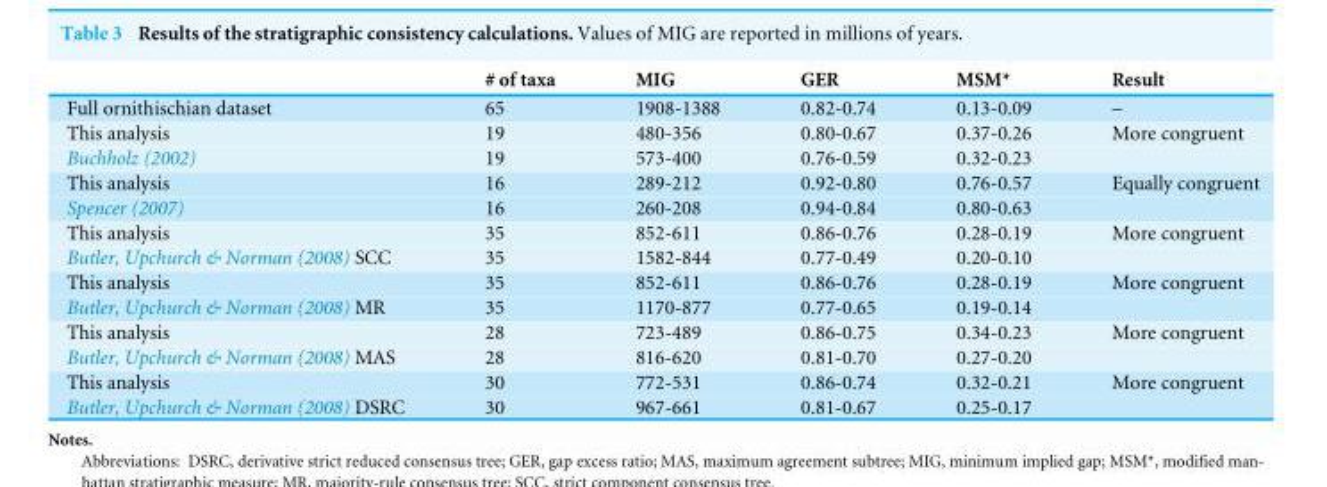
<table><thead><tr><td></td><td># of taxa</td><td>MIG</td><td>GER</td><td>MSM*</td><td>Result</td></tr></thead><tbody><tr><td>Full ornithischian dataset</td><td>65</td><td>1908-1388</td><td>0.82-0.74</td><td>0.13-0.09</td><td>–</td></tr><tr><td>This analysis</td><td>19</td><td>480-356</td><td>0.80-0.67</td><td>0.37-0.26</td><td>More congruent</td></tr><tr><td>Buchholz (2002)</td><td>19</td><td>573-400</td><td>0.76-0.59</td><td>0.32-0.23</td><td></td></tr><tr><td>This analysis</td><td>16</td><td>289-212</td><td>0.92-0.80</td><td>0.76-0.57</td><td>Equally congruent</td></tr><tr><td>Spencer (2007)</td><td>16</td><td>260-208</td><td>0.94-0.84</td><td>0.80-0.63</td><td></td></tr><tr><td>This analysis</td><td>35</td><td>852-611</td><td>0.86-0.76</td><td>0.28-0.19</td><td>More congruent</td></tr><tr><td>Butler, Upchurch &amp; Norman (2008) SCC</td><td>35</td><td>1582-844</td><td>0.77-0.49</td><td>0.20-0.10</td><td></td></tr><tr><td>This analysis</td><td>35</td><td>852-611</td><td>0.86-0.76</td><td>0.28-0.19</td><td>More congruent</td></tr><tr><td>Butler, Upchurch &amp; Norman (2008) MR</td><td>35</td><td>1170-877</td><td>0.77-0.65</td><td>0.19-0.14</td><td></td></tr><tr><td>This analysis</td><td>28</td><td>723-489</td><td>0.86-0.75</td><td>0.34-0.23</td><td>More congruent</td></tr><tr><td>Butler, Upchurch &amp; Norman (2008) MAS</td><td>28</td><td>816-620</td><td>0.81-0.70</td><td>0.27-0.20</td><td></td></tr><tr><td>This analysis</td><td>30</td><td>772-531</td><td>0.86-0.74</td><td>0.32-0.21</td><td>More congruent</td></tr><tr><td>Butler, Upchurch &amp; Norman (2008) DSRC</td><td>30</td><td>967-661</td><td>0.81-0.67</td><td>0.25-0.17</td><td></td></tr></tbody></table>